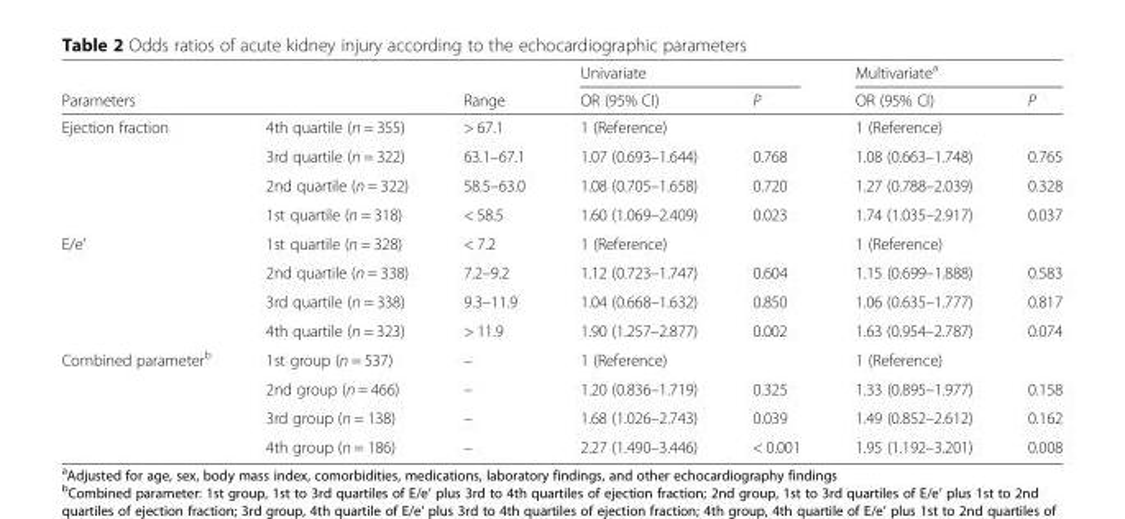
<table><thead><tr><td rowspan="2">Parameters</td><td rowspan="2"></td><td rowspan="2">Range</td><td colspan="2">Univariate</td><td colspan="2">Multivariate<sup>a</sup></td></tr><tr><td>OR (95% CI)</td><td>P</td><td>OR (95% CI)</td><td>P</td></tr></thead><tbody><tr><td rowspan="4">Ejection fraction</td><td>4th quartile (n = 355)</td><td>&gt; 67.1</td><td>1 (Reference)</td><td></td><td>1 (Reference)</td><td></td></tr><tr><td>3rd quartile (n = 322)</td><td>63.1–67.1</td><td>1.07 (0.693–1.644)</td><td>0.768</td><td>1.08 (0.663–1.748)</td><td>0.765</td></tr><tr><td>2nd quartile (n = 322)</td><td>58.5–63.0</td><td>1.08 (0.705–1.658)</td><td>0.720</td><td>1.27 (0.788–2.039)</td><td>0.328</td></tr><tr><td>1st quartile (n = 318)</td><td>&lt; 58.5</td><td>1.60 (1.069–2.409)</td><td>0.023</td><td>1.74 (1.035–2.917)</td><td>0.037</td></tr><tr><td rowspan="4">E/e’</td><td>1st quartile (n = 328)</td><td>&lt; 7.2</td><td>1 (Reference)</td><td></td><td>1 (Reference)</td><td></td></tr><tr><td>2nd quartile (n = 338)</td><td>7.2–9.2</td><td>1.12 (0.723–1.747)</td><td>0.604</td><td>1.15 (0.699–1.888)</td><td>0.583</td></tr><tr><td>3rd quartile (n = 338)</td><td>9.3–11.9</td><td>1.04 (0.668–1.632)</td><td>0.850</td><td>1.06 (0.635–1.777)</td><td>0.817</td></tr><tr><td>4th quartile (n = 323)</td><td>&gt; 11.9</td><td>1.90 (1.257–2.877)</td><td>0.002</td><td>1.63 (0.954–2.787)</td><td>0.074</td></tr><tr><td rowspan="4">Combined parameter<sup>b</sup></td><td>1st group (n = 537)</td><td>–</td><td>1 (Reference)</td><td></td><td>1 (Reference)</td><td></td></tr><tr><td>2nd group (n = 466)</td><td>–</td><td>1.20 (0.836–1.719)</td><td>0.325</td><td>1.33 (0.895–1.977)</td><td>0.158</td></tr><tr><td>3rd group (n = 138)</td><td>–</td><td>1.68 (1.026–2.743)</td><td>0.039</td><td>1.49 (0.852–2.612)</td><td>0.162</td></tr><tr><td>4th group (n = 186)</td><td>–</td><td>2.27 (1.490–3.446)</td><td>&lt; 0.001</td><td>1.95 (1.192–3.201)</td><td>0.008</td></tr></tbody></table>